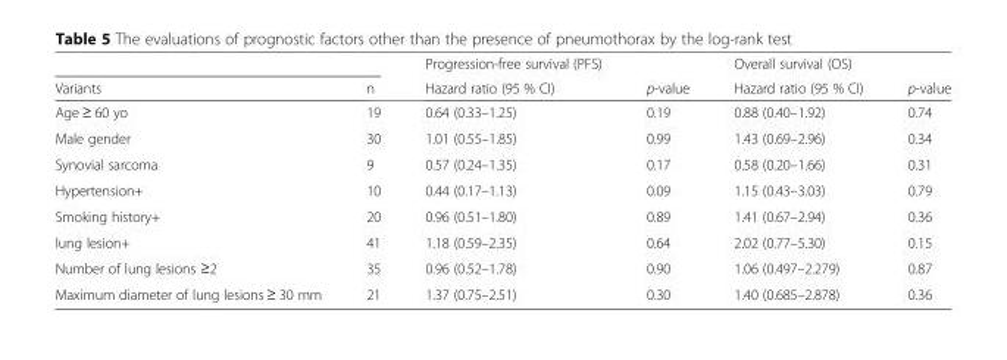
<table><thead><tr><td rowspan="2">Variants</td><td rowspan="2">n</td><td rowspan="2">Progression-free survival (PFS) Hazard ratio (95 % CI)</td><td rowspan="2">p-value</td><td rowspan="2">Overall survival (OS) Hazard ratio (95 % CI)</td><td rowspan="2">p-value</td></tr><tr></tr></thead><tbody><tr><td>Age ≥ 60 yo</td><td>19</td><td>0.64 (0.33–1.25)</td><td>0.19</td><td>0.88 (0.40–1.92)</td><td>0.74</td></tr><tr><td>Male gender</td><td>30</td><td>1.01 (0.55–1.85)</td><td>0.99</td><td>1.43 (0.69–2.96)</td><td>0.34</td></tr><tr><td>Synovial sarcoma</td><td>9</td><td>0.57 (0.24–1.35)</td><td>0.17</td><td>0.58 (0.20–1.66)</td><td>0.31</td></tr><tr><td>Hypertension+</td><td>10</td><td>0.44 (0.17–1.13)</td><td>0.09</td><td>1.15 (0.43–3.03)</td><td>0.79</td></tr><tr><td>Smoking history+</td><td>20</td><td>0.96 (0.51–1.80)</td><td>0.89</td><td>1.41 (0.67–2.94)</td><td>0.36</td></tr><tr><td>lung lesion+</td><td>41</td><td>1.18 (0.59–2.35)</td><td>0.64</td><td>2.02 (0.77–5.30)</td><td>0.15</td></tr><tr><td>Number of lung lesions ≥2</td><td>35</td><td>0.96 (0.52–1.78)</td><td>0.90</td><td>1.06 (0.497–2.279)</td><td>0.87</td></tr><tr><td>Maximum diameter of lung lesions ≥ 30 mm</td><td>21</td><td>1.37 (0.75–2.51)</td><td>0.30</td><td>1.40 (0.685–2.878)</td><td>0.36</td></tr></tbody></table>